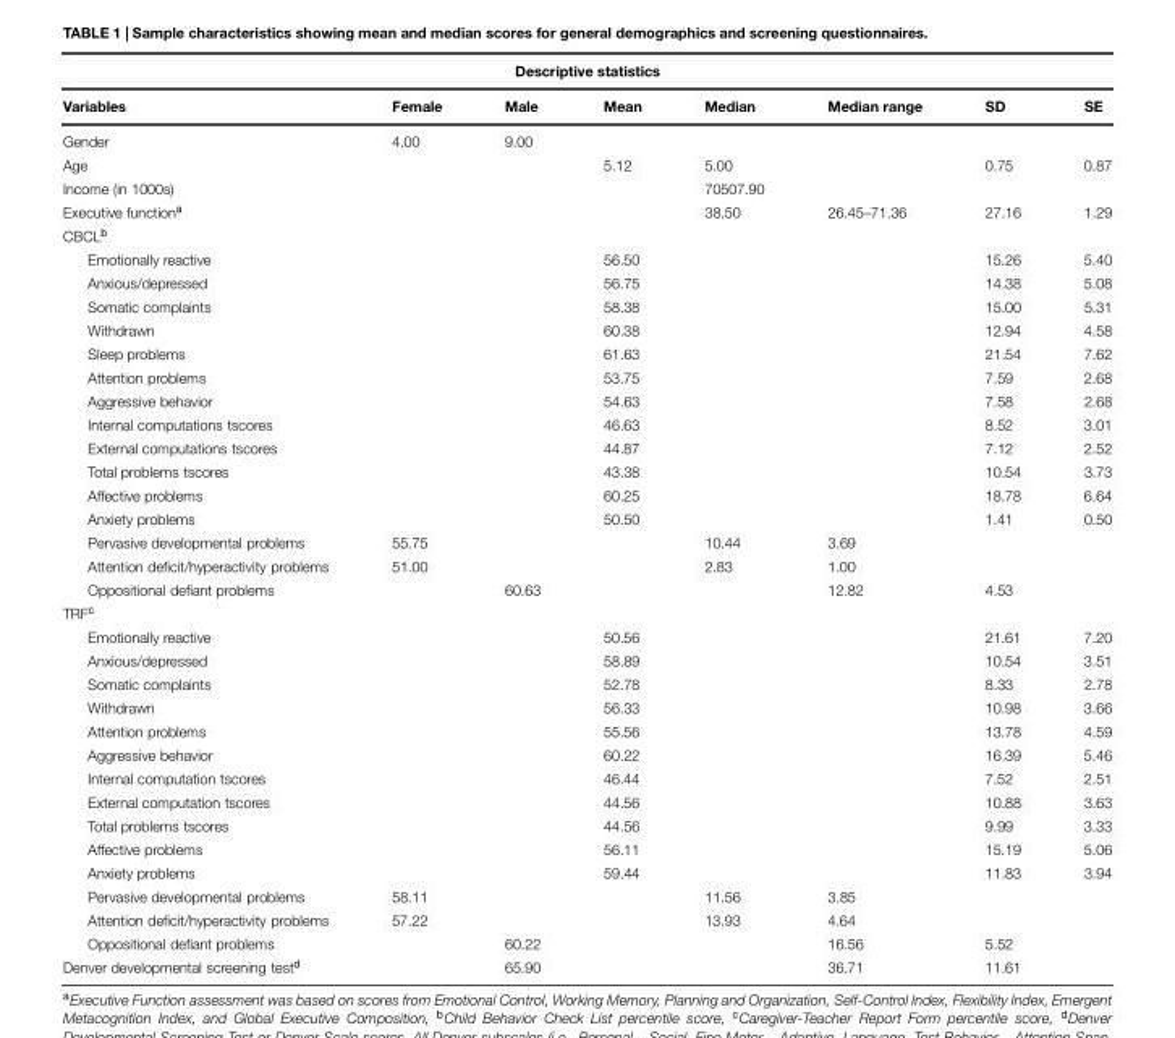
<table><thead><tr><td colspan="8">Descriptive statistics</td></tr><tr><td>Variables</td><td>Female</td><td>Male</td><td>Mean</td><td>Median</td><td>Median range</td><td>SD</td><td>SE</td></tr></thead><tbody><tr><td>Gender</td><td>4.00</td><td>9.00</td><td></td><td></td><td></td><td></td><td></td></tr><tr><td>Age</td><td></td><td></td><td>5.12</td><td>5.00</td><td></td><td>0.75</td><td>0.87</td></tr><tr><td>Income (in 1000s)</td><td></td><td></td><td></td><td>70507.90</td><td></td><td></td><td></td></tr><tr><td>Executive function<sup>a</sup></td><td></td><td></td><td></td><td>38.50</td><td>26.45–71.36</td><td>27.16</td><td>1.29</td></tr><tr><td colspan="8">CBCL<sup>b</sup></td></tr><tr><td>Emotionally reactive</td><td></td><td></td><td>56.50</td><td></td><td></td><td>15.26</td><td>5.40</td></tr><tr><td>Anxious/depressed</td><td></td><td></td><td>56.75</td><td></td><td></td><td>14.38</td><td>5.08</td></tr><tr><td>Somatic complaints</td><td></td><td></td><td>58.38</td><td></td><td></td><td>15.00</td><td>5.31</td></tr><tr><td>Withdrawn</td><td></td><td></td><td>60.38</td><td></td><td></td><td>12.94</td><td>4.58</td></tr><tr><td>Sleep problems</td><td></td><td></td><td>61.63</td><td></td><td></td><td>21.54</td><td>7.62</td></tr><tr><td>Attention problems</td><td></td><td></td><td>53.75</td><td></td><td></td><td>7.59</td><td>2.68</td></tr><tr><td>Aggressive behavior</td><td></td><td></td><td>54.63</td><td></td><td></td><td>7.58</td><td>2.68</td></tr><tr><td>Internal computations tscores</td><td></td><td></td><td>46.63</td><td></td><td></td><td>8.52</td><td>3.01</td></tr><tr><td>External computations tscores</td><td></td><td></td><td>44.87</td><td></td><td></td><td>7.12</td><td>2.52</td></tr><tr><td>Total problems tscores</td><td></td><td></td><td>43.38</td><td></td><td></td><td>10.54</td><td>3.73</td></tr><tr><td>Affective problems</td><td></td><td></td><td>60.25</td><td></td><td></td><td>18.78</td><td>6.64</td></tr><tr><td>Anxiety problems</td><td></td><td></td><td>50.50</td><td></td><td></td><td>1.41</td><td>0.50</td></tr><tr><td>Pervasive developmental problems</td><td>55.75</td><td></td><td></td><td>10.44</td><td>3.69</td><td></td><td></td></tr><tr><td>Attention deficit/hyperactivity problems</td><td>51.00</td><td></td><td></td><td>2.83</td><td>1.00</td><td></td><td></td></tr><tr><td>Oppositional defiant problems</td><td></td><td>60.63</td><td></td><td></td><td>12.82</td><td>4.53</td><td></td></tr><tr><td colspan="8">TRF<sup>c</sup></td></tr><tr><td>Emotionally reactive</td><td></td><td></td><td>50.56</td><td></td><td></td><td>21.61</td><td>7.20</td></tr><tr><td>Anxious/depressed</td><td></td><td></td><td>58.89</td><td></td><td></td><td>10.54</td><td>3.51</td></tr><tr><td>Somatic complaints</td><td></td><td></td><td>52.78</td><td></td><td></td><td>8.33</td><td>2.78</td></tr><tr><td>Withdrawn</td><td></td><td></td><td>56.33</td><td></td><td></td><td>10.98</td><td>3.66</td></tr><tr><td>Attention problems</td><td></td><td></td><td>55.56</td><td></td><td></td><td>13.78</td><td>4.59</td></tr><tr><td>Aggressive behavior</td><td></td><td></td><td>60.22</td><td></td><td></td><td>16.39</td><td>5.46</td></tr><tr><td>Internal computation tscores</td><td></td><td></td><td>46.44</td><td></td><td></td><td>7.52</td><td>2.51</td></tr><tr><td>External computation tscores</td><td></td><td></td><td>44.56</td><td></td><td></td><td>10.88</td><td>3.63</td></tr><tr><td>Total problems tscores</td><td></td><td></td><td>44.56</td><td></td><td></td><td>9.99</td><td>3.33</td></tr><tr><td>Affective problems</td><td></td><td></td><td>56.11</td><td></td><td></td><td>15.19</td><td>5.06</td></tr><tr><td>Anxiety problems</td><td></td><td></td><td>59.44</td><td></td><td></td><td>11.83</td><td>3.94</td></tr><tr><td>Pervasive developmental problems</td><td>58.11</td><td></td><td></td><td>11.56</td><td>3.85</td><td></td><td></td></tr><tr><td>Attention deficit/hyperactivity problems</td><td>57.22</td><td></td><td></td><td>13.93</td><td>4.64</td><td></td><td></td></tr><tr><td>Oppositional defiant problems</td><td></td><td>60.22</td><td></td><td></td><td>16.56</td><td>5.52</td><td></td></tr><tr><td>Denver developmental screening test<sup>d</sup></td><td></td><td>65.90</td><td></td><td></td><td>36.71</td><td>11.61</td><td></td></tr></tbody></table>